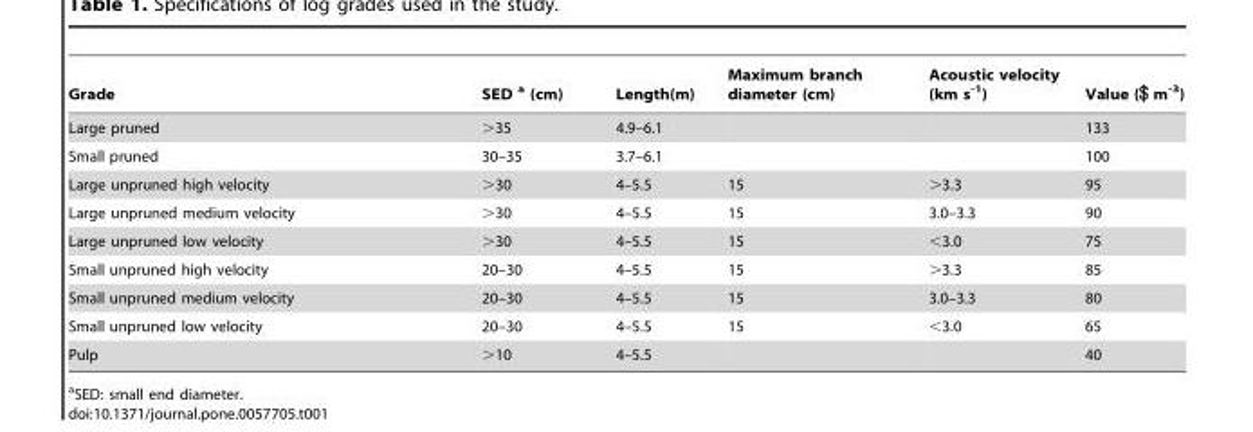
<table><thead><tr><td>Grade</td><td>SED a (cm)</td><td>Length(m)</td><td>Maximum branch diameter (cm)</td><td>Acoustic velocity (km s<sup>-1</sup>)</td><td>Value ($ m<sup>-3</sup>)</td></tr></thead><tbody><tr><td>Large pruned</td><td>&gt;35</td><td>4.9–6.1</td><td></td><td></td><td>133</td></tr><tr><td>Small pruned</td><td>30–35</td><td>3.7–6.1</td><td></td><td></td><td>100</td></tr><tr><td>Large unpruned high velocity</td><td>&gt;30</td><td>4–5.5</td><td>15</td><td>&gt;3.3</td><td>95</td></tr><tr><td>Large unpruned medium velocity</td><td>&gt;30</td><td>4–5.5</td><td>15</td><td>3.0–3.3</td><td>90</td></tr><tr><td>Large unpruned low velocity</td><td>&gt;30</td><td>4–5.5</td><td>15</td><td>&lt;3.0</td><td>75</td></tr><tr><td>Small unpruned high velocity</td><td>20–30</td><td>4–5.5</td><td>15</td><td>&gt;3.3</td><td>85</td></tr><tr><td>Small unpruned medium velocity</td><td>20–30</td><td>4–5.5</td><td>15</td><td>3.0–3.3</td><td>80</td></tr><tr><td>Small unpruned low velocity</td><td>20–30</td><td>4–5.5</td><td>15</td><td>&lt;3.0</td><td>65</td></tr><tr><td>Pulp</td><td>&gt;10</td><td>4–5.5</td><td></td><td></td><td>40</td></tr></tbody></table>